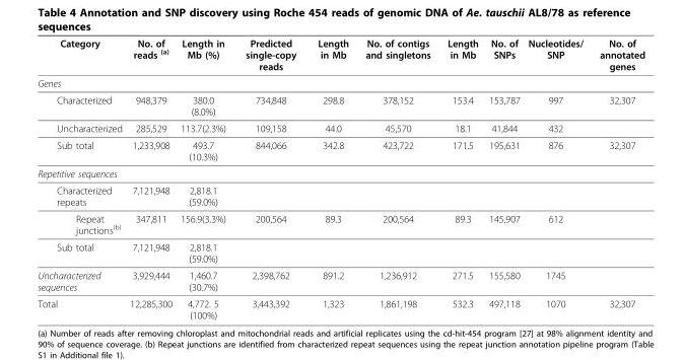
<table><thead><tr><td>Category</td><td>No. of reads <sup>(a)</sup></td><td>Length in Mb (%)</td><td>Predicted single-copy reads</td><td>Length in Mb</td><td>No. of contigs and singletons</td><td>Length in Mb</td><td>No. of SNPs</td><td>Nucleotides/ SNP</td><td>No. of annotated genes</td></tr></thead><tbody><tr><td colspan="10">Genes</td></tr><tr><td>Characterized</td><td>948,379</td><td>380.0 (8.0%)</td><td>734,848</td><td>298.8</td><td>378,152</td><td>153.4</td><td>153,787</td><td>997</td><td>32,307</td></tr><tr><td>Uncharacterized</td><td>285,529</td><td>113.7(2.3%)</td><td>109,158</td><td>44.0</td><td>45,570</td><td>18.1</td><td>41,844</td><td>432</td><td></td></tr><tr><td>Sub total</td><td>1,233,908</td><td>493.7 (10.3%)</td><td>844,066</td><td>342.8</td><td>423,722</td><td>171.5</td><td>195,631</td><td>876</td><td>32,307</td></tr><tr><td colspan="10">Repetitive sequences</td></tr><tr><td>Characterized repeats</td><td>7,121,948</td><td>2,818.1 (59.0%)</td><td></td><td></td><td></td><td></td><td></td><td></td><td></td></tr><tr><td>Repeat junctions<sup>(b)</sup></td><td>347,811</td><td>156.9(3.3%)</td><td>200,564</td><td>89.3</td><td>200,564</td><td>89.3</td><td>145,907</td><td>612</td><td></td></tr><tr><td>Sub total</td><td>7,121,948</td><td>2,818.1 (59.0%)</td><td></td><td></td><td></td><td></td><td></td><td></td><td></td></tr><tr><td>Uncharacterized sequences</td><td>3,929,444</td><td>1,460.7 (30.7%)</td><td>2,398,762</td><td>891.2</td><td>1,236,912</td><td>271.5</td><td>155,580</td><td>1745</td><td></td></tr><tr><td>Total</td><td>12,285,300</td><td>4,772. 5 (100%)</td><td>3,443,392</td><td>1,323</td><td>1,861,198</td><td>532.3</td><td>497,118</td><td>1070</td><td>32,307</td></tr></tbody></table>